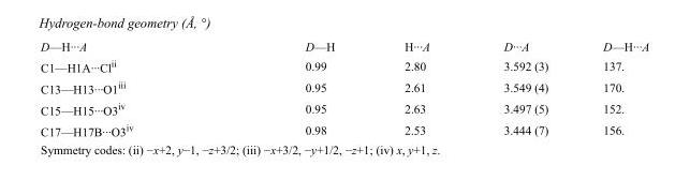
<table><tbody><tr><td>D—H···A</td><td>D—H</td><td>H···A</td><td>D···A</td><td>D—H···A</td></tr><tr><td>C1—H1A···Cl<sup>ii</sup></td><td>0.99</td><td>2.80</td><td>3.592 (3)</td><td>137.</td></tr><tr><td>C13—H13···O1<sup>iii</sup></td><td>0.95</td><td>2.61</td><td>3.549 (4)</td><td>170.</td></tr><tr><td>C15—H15···O3<sup>iv</sup></td><td>0.95</td><td>2.63</td><td>3.497 (5)</td><td>152.</td></tr><tr><td>C17—H17B···O3<sup>iv</sup></td><td>0.98</td><td>2.53</td><td>3.444 (7)</td><td>156.</td></tr></tbody></table>